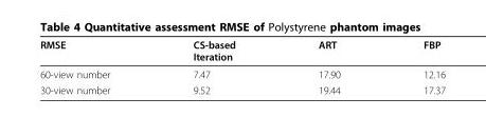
<table><thead><tr><td>RMSE</td><td>CS-based Iteration</td><td>ART</td><td>FBP</td></tr></thead><tbody><tr><td>60-view number</td><td>7.47</td><td>17.90</td><td>12.16</td></tr><tr><td>30-view number</td><td>9.52</td><td>19.44</td><td>17.37</td></tr></tbody></table>